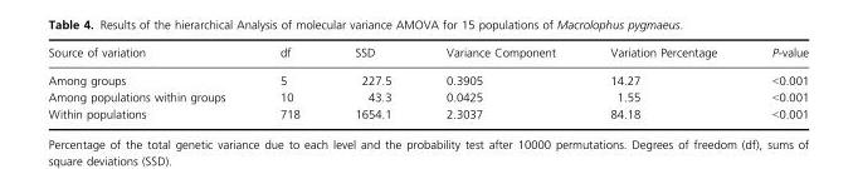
<table><thead><tr><td>Source of variation</td><td>df</td><td>SSD</td><td>Variance Component</td><td>Variation Percentage</td><td>P-value</td></tr></thead><tbody><tr><td>Among groups</td><td>5</td><td>227.5</td><td>0.3905</td><td>14.27</td><td>&lt;0.001</td></tr><tr><td>Among populations within groups</td><td>10</td><td>43.3</td><td>0.0425</td><td>1.55</td><td>&lt;0.001</td></tr><tr><td>Within populations</td><td>718</td><td>1654.1</td><td>2.3037</td><td>84.18</td><td>&lt;0.001</td></tr></tbody></table>